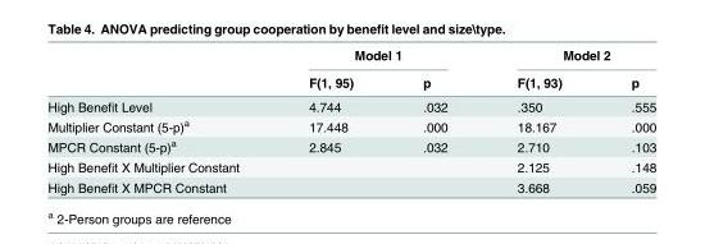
<table><thead><tr><td rowspan="2"></td><td colspan="2">Model 1</td><td colspan="2">Model 2</td></tr><tr><td>F(1, 95)</td><td>p</td><td>F(1, 93)</td><td>p</td></tr></thead><tbody><tr><td>High Benefit Level</td><td>4.744</td><td>.032</td><td>.350</td><td>.555</td></tr><tr><td>Multiplier Constant (5-p)<sup>a</sup></td><td>17.448</td><td>.000</td><td>18.167</td><td>.000</td></tr><tr><td>MPCR Constant (5-p)<sup>a</sup></td><td>2.845</td><td>.032</td><td>2.710</td><td>.103</td></tr><tr><td>High Benefit X Multiplier Constant</td><td></td><td></td><td>2.125</td><td>.148</td></tr><tr><td>High Benefit X MPCR Constant</td><td></td><td></td><td>3.668</td><td>.059</td></tr></tbody></table>